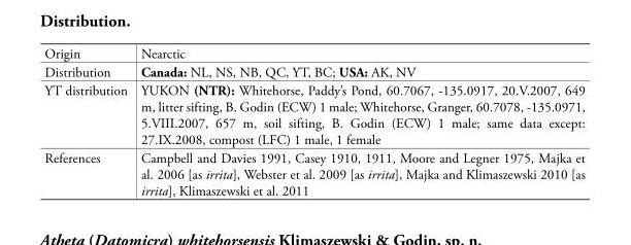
<table><tbody><tr><td>Origin</td><td>Nearctic</td></tr><tr><td>Distribution</td><td>Canada: NL, NS, NB, QC, YT, BC; USA: AK, NV</td></tr><tr><td>YT distribution</td><td>YUKON (NTR): Whitehorse, Paddy’s Pond, 60.7067, -135.0917, 20.V.2007, 649 m, litter sifting, B. Godin (ECW) 1 male; Whitehorse, Granger, 60.7078, -135.0971, 5.VIII.2007, 657 m, soil sifting, B. Godin (ECW) 1 male; same data except: 27.IX.2008, compost (LFC) 1 male, 1 female</td></tr><tr><td>References</td><td>Campbell and Davies 1991, Casey 1910, 1911, Moore and Legner 1975, Majka et al. 2006 [as irrita], Webster et al. 2009 [as irrita], Majka and Klimaszewski 2010 [as irrita], Klimaszewski et al. 2011</td></tr></tbody></table>